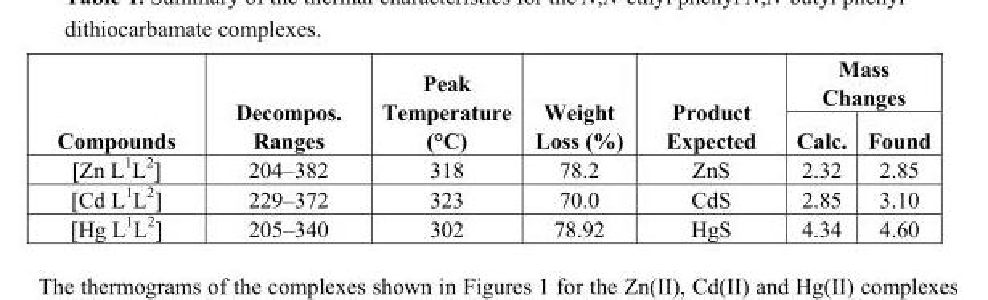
<table><thead><tr><td rowspan="2">Compounds</td><td rowspan="2">Decompos. Ranges</td><td rowspan="2">Peak Temperature (°C)</td><td rowspan="2">Weight Loss (%)</td><td rowspan="2">Product Expected</td><td colspan="2">Mass Changes</td></tr><tr><td>Calc.</td><td>Found</td></tr></thead><tbody><tr><td>[Zn L<sup>1</sup>L<sup>2</sup>]</td><td>204–382</td><td>318</td><td>78.2</td><td>ZnS</td><td>2.32</td><td>2.85</td></tr><tr><td>[Cd L<sup>1</sup>L<sup>2</sup>]</td><td>229–372</td><td>323</td><td>70.0</td><td>CdS</td><td>2.85</td><td>3.10</td></tr><tr><td>[Hg L<sup>1</sup>L<sup>2</sup>]</td><td>205–340</td><td>302</td><td>78.92</td><td>HgS</td><td>4.34</td><td>4.60</td></tr></tbody></table>